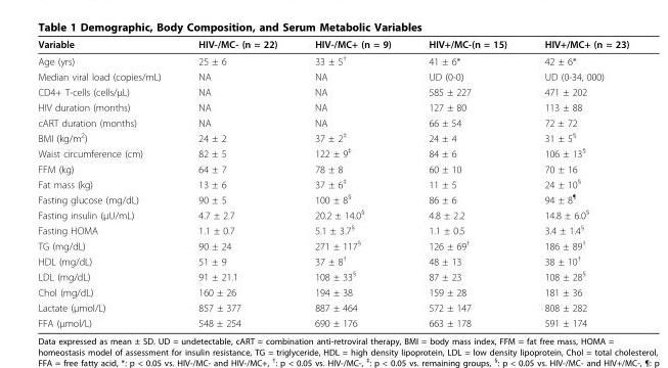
<table><thead><tr><td>Variable</td><td>HIV-/MC- (n = 22)</td><td>HIV-/MC+ (n = 9)</td><td>HIV+/MC-(n = 15)</td><td>HIV+/MC+ (n = 23)</td></tr></thead><tbody><tr><td>Age (yrs)</td><td>25 ± 6</td><td>33 ± 5<sup>†</sup></td><td>41 ± 6*</td><td>42 ± 6*</td></tr><tr><td>Median viral load (copies/mL)</td><td>NA</td><td>NA</td><td>UD (0-0)</td><td>UD (0-34, 000)</td></tr><tr><td>CD4+ T-cells (cells/μL)</td><td>NA</td><td>NA</td><td>585 ± 227</td><td>471 ± 202</td></tr><tr><td>HIV duration (months)</td><td>NA</td><td>NA</td><td>127 ± 80</td><td>113 ± 88</td></tr><tr><td>cART duration (months)</td><td>NA</td><td>NA</td><td>66 ± 54</td><td>72 ± 72</td></tr><tr><td>BMI (kg/m<sup>2</sup>)</td><td>24 ± 2</td><td>37 ± 2<sup>‡</sup></td><td>24 ± 4</td><td>31 ± 5<sup>§</sup></td></tr><tr><td>Waist circumference (cm)</td><td>82 ± 5</td><td>122 ± 9<sup>‡</sup></td><td>84 ± 6</td><td>106 ± 13<sup>§</sup></td></tr><tr><td>FFM (kg)</td><td>64 ± 7</td><td>78 ± 8</td><td>60 ± 10</td><td>70 ± 16</td></tr><tr><td>Fat mass (kg)</td><td>13 ± 6</td><td>37 ± 6<sup>‡</sup></td><td>11 ± 5</td><td>24 ± 10<sup>§</sup></td></tr><tr><td>Fasting glucose (mg/dL)</td><td>90 ± 5</td><td>100 ± 8<sup>§</sup></td><td>86 ± 6</td><td>94 ± 8<sup>¶</sup></td></tr><tr><td>Fasting insulin (μU/mL)</td><td>4.7 ± 2.7</td><td>20.2 ± 14.0<sup>§</sup></td><td>4.8 ± 2.2</td><td>14.8 ± 6.0<sup>§</sup></td></tr><tr><td>Fasting HOMA</td><td>1.1 ± 0.7</td><td>5.1 ± 3.7<sup>§</sup></td><td>1.1 ± 0.5</td><td>3.4 ± 1.4<sup>§</sup></td></tr><tr><td>TG (mg/dL)</td><td>90 ± 24</td><td>271 ± 117<sup>§</sup></td><td>126 ± 69<sup>†</sup></td><td>186 ± 89<sup>†</sup></td></tr><tr><td>HDL (mg/dL)</td><td>51 ± 9</td><td>37 ± 8<sup>†</sup></td><td>48 ± 13</td><td>38 ± 10<sup>†</sup></td></tr><tr><td>LDL (mg/dL)</td><td>91 ± 21.1</td><td>108 ± 33<sup>§</sup></td><td>87 ± 23</td><td>108 ± 28<sup>§</sup></td></tr><tr><td>Chol (mg/dL)</td><td>160 ± 26</td><td>194 ± 38</td><td>159 ± 28</td><td>181 ± 36</td></tr><tr><td>Lactate (μmol/L)</td><td>857 ± 377</td><td>887 ± 464</td><td>572 ± 147</td><td>808 ± 282</td></tr><tr><td>FFA (μmol/L)</td><td>548 ± 254</td><td>690 ± 176</td><td>663 ± 178</td><td>591 ± 174</td></tr></tbody></table>